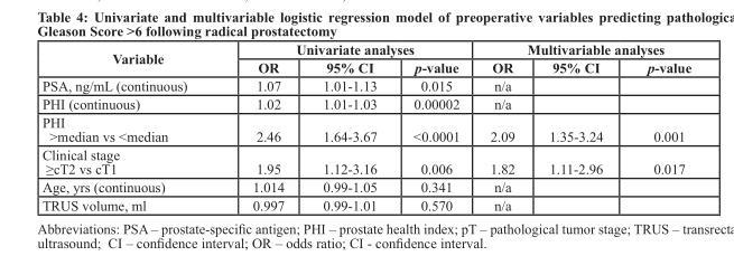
<table><thead><tr><td rowspan="2">Variable</td><td colspan="3">Univariate analyses</td><td colspan="3">Multivariable analyses</td></tr><tr><td>OR</td><td>95% CI</td><td>p-value</td><td>OR</td><td>95% CI</td><td>p-value</td></tr></thead><tbody><tr><td>PSA, ng/mL (continuous)</td><td>1.07</td><td>1.01-1.13</td><td>0.015</td><td>n/a</td><td></td><td></td></tr><tr><td>PHI (continuous)</td><td>1.02</td><td>1.01-1.03</td><td>0.00002</td><td>n/a</td><td></td><td></td></tr><tr><td>PHI &gt;median vs &lt;median</td><td>2.46</td><td>1.64-3.67</td><td>&lt;0.0001</td><td>2.09</td><td>1.35-3.24</td><td>0.001</td></tr><tr><td>Clinical stage ≥cT2 vs cT1</td><td>1.95</td><td>1.12-3.16</td><td>0.006</td><td>1.82</td><td>1.11-2.96</td><td>0.017</td></tr><tr><td>Age, yrs (continuous)</td><td>1.014</td><td>0.99-1.05</td><td>0.341</td><td>n/a</td><td></td><td></td></tr><tr><td>TRUS volume, ml</td><td>0.997</td><td>0.99-1.01</td><td>0.570</td><td>n/a</td><td></td><td></td></tr></tbody></table>